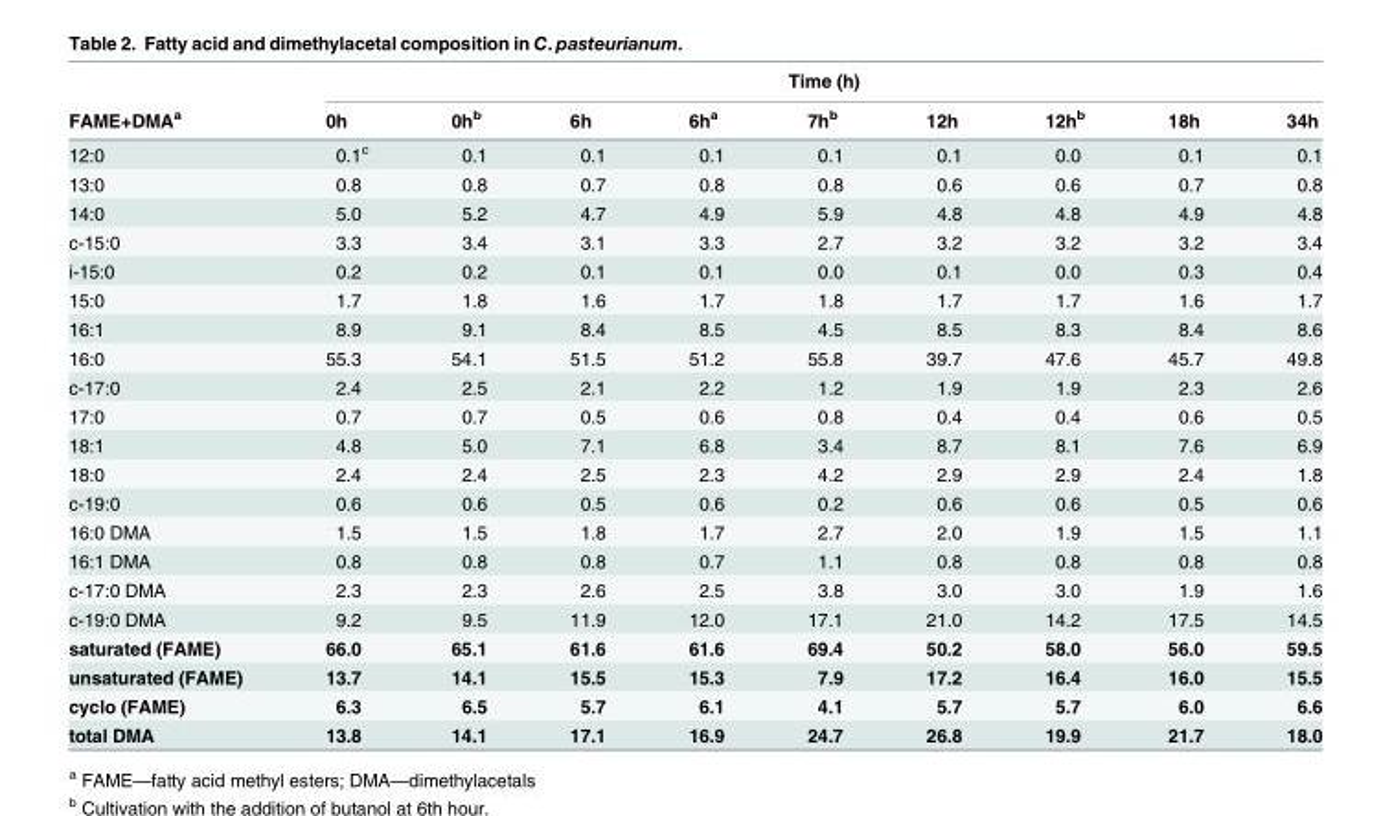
<table><thead><tr><td rowspan="2">FAME+DMA<sup>a</sup></td><td colspan="9">Time (h)</td></tr><tr><td>0h</td><td>0h<sup>b</sup></td><td>6h</td><td>6h<sup>a</sup></td><td>7h<sup>b</sup></td><td>12h</td><td>12h<sup>b</sup></td><td>18h</td><td>34h</td></tr></thead><tbody><tr><td>12:0</td><td>0.1<sup>c</sup></td><td>0.1</td><td>0.1</td><td>0.1</td><td>0.1</td><td>0.1</td><td>0.0</td><td>0.1</td><td>0.1</td></tr><tr><td>13:0</td><td>0.8</td><td>0.8</td><td>0.7</td><td>0.8</td><td>0.8</td><td>0.6</td><td>0.6</td><td>0.7</td><td>0.8</td></tr><tr><td>14:0</td><td>5.0</td><td>5.2</td><td>4.7</td><td>4.9</td><td>5.9</td><td>4.8</td><td>4.8</td><td>4.9</td><td>4.8</td></tr><tr><td>c-15:0</td><td>3.3</td><td>3.4</td><td>3.1</td><td>3.3</td><td>2.7</td><td>3.2</td><td>3.2</td><td>3.2</td><td>3.4</td></tr><tr><td>i-15:0</td><td>0.2</td><td>0.2</td><td>0.1</td><td>0.1</td><td>0.0</td><td>0.1</td><td>0.0</td><td>0.3</td><td>0.4</td></tr><tr><td>15:0</td><td>1.7</td><td>1.8</td><td>1.6</td><td>1.7</td><td>1.8</td><td>1.7</td><td>1.7</td><td>1.6</td><td>1.7</td></tr><tr><td>16:1</td><td>8.9</td><td>9.1</td><td>8.4</td><td>8.5</td><td>4.5</td><td>8.5</td><td>8.3</td><td>8.4</td><td>8.6</td></tr><tr><td>16:0</td><td>55.3</td><td>54.1</td><td>51.5</td><td>51.2</td><td>55.8</td><td>39.7</td><td>47.6</td><td>45.7</td><td>49.8</td></tr><tr><td>c-17:0</td><td>2.4</td><td>2.5</td><td>2.1</td><td>2.2</td><td>1.2</td><td>1.9</td><td>1.9</td><td>2.3</td><td>2.6</td></tr><tr><td>17:0</td><td>0.7</td><td>0.7</td><td>0.5</td><td>0.6</td><td>0.8</td><td>0.4</td><td>0.4</td><td>0.6</td><td>0.5</td></tr><tr><td>18:1</td><td>4.8</td><td>5.0</td><td>7.1</td><td>6.8</td><td>3.4</td><td>8.7</td><td>8.1</td><td>7.6</td><td>6.9</td></tr><tr><td>18:0</td><td>2.4</td><td>2.4</td><td>2.5</td><td>2.3</td><td>4.2</td><td>2.9</td><td>2.9</td><td>2.4</td><td>1.8</td></tr><tr><td>c-19:0</td><td>0.6</td><td>0.6</td><td>0.5</td><td>0.6</td><td>0.2</td><td>0.6</td><td>0.6</td><td>0.5</td><td>0.6</td></tr><tr><td>16:0 DMA</td><td>1.5</td><td>1.5</td><td>1.8</td><td>1.7</td><td>2.7</td><td>2.0</td><td>1.9</td><td>1.5</td><td>1.1</td></tr><tr><td>16:1 DMA</td><td>0.8</td><td>0.8</td><td>0.8</td><td>0.7</td><td>1.1</td><td>0.8</td><td>0.8</td><td>0.8</td><td>0.8</td></tr><tr><td>c-17:0 DMA</td><td>2.3</td><td>2.3</td><td>2.6</td><td>2.5</td><td>3.8</td><td>3.0</td><td>3.0</td><td>1.9</td><td>1.6</td></tr><tr><td>c-19:0 DMA</td><td>9.2</td><td>9.5</td><td>11.9</td><td>12.0</td><td>17.1</td><td>21.0</td><td>14.2</td><td>17.5</td><td>14.5</td></tr><tr><td>saturated (FAME)</td><td>66.0</td><td>65.1</td><td>61.6</td><td>61.6</td><td>69.4</td><td>50.2</td><td>58.0</td><td>56.0</td><td>59.5</td></tr><tr><td>unsaturated (FAME)</td><td>13.7</td><td>14.1</td><td>15.5</td><td>15.3</td><td>7.9</td><td>17.2</td><td>16.4</td><td>16.0</td><td>15.5</td></tr><tr><td>cyclo (FAME)</td><td>6.3</td><td>6.5</td><td>5.7</td><td>6.1</td><td>4.1</td><td>5.7</td><td>5.7</td><td>6.0</td><td>6.6</td></tr><tr><td>total DMA</td><td>13.8</td><td>14.1</td><td>17.1</td><td>16.9</td><td>24.7</td><td>26.8</td><td>19.9</td><td>21.7</td><td>18.0</td></tr></tbody></table>